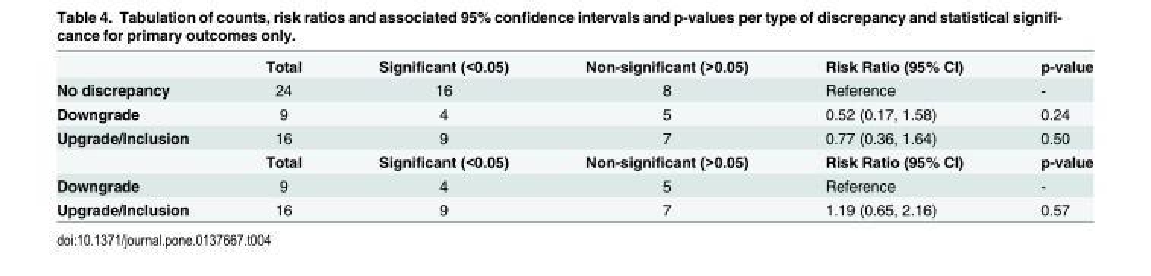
<table><thead><tr><td></td><td>Total</td><td>Significant (&lt;0.05)</td><td>Non-significant (&gt;0.05)</td><td>Risk Ratio (95% CI)</td><td>p-value</td></tr></thead><tbody><tr><td>No discrepancy</td><td>24</td><td>16</td><td>8</td><td>Reference</td><td>-</td></tr><tr><td>Downgrade</td><td>9</td><td>4</td><td>5</td><td>0.52 (0.17, 1.58)</td><td>0.24</td></tr><tr><td rowspan="2">Upgrade/Inclusion</td><td>16</td><td>9</td><td>7</td><td>0.77 (0.36, 1.64)</td><td>0.50</td></tr><tr><td>Total</td><td>Significant (&lt;0.05)</td><td>Non-significant (&gt;0.05)</td><td>Risk Ratio (95% CI)</td><td>p-value</td></tr><tr><td>Downgrade</td><td>9</td><td>4</td><td>5</td><td>Reference</td><td>-</td></tr><tr><td>Upgrade/Inclusion</td><td>16</td><td>9</td><td>7</td><td>1.19 (0.65, 2.16)</td><td>0.57</td></tr></tbody></table>